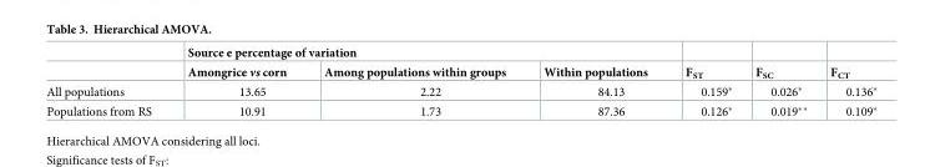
<table><thead><tr><td rowspan="2"></td><td colspan="3">Source e percentage of variation</td><td rowspan="2">F<sub>ST</sub></td><td rowspan="2">F<sub>SC</sub></td><td rowspan="2">F<sub>CT</sub></td></tr><tr><td>Amongrice vs corn</td><td>Among populations within groups</td><td>Within populations</td></tr></thead><tbody><tr><td>All populations</td><td>13.65</td><td>2.22</td><td>84.13</td><td>0.159*</td><td>0.026*</td><td>0.136*</td></tr><tr><td>Populations from RS</td><td>10.91</td><td>1.73</td><td>87.36</td><td>0.126*</td><td>0.019**</td><td>0.109*</td></tr></tbody></table>